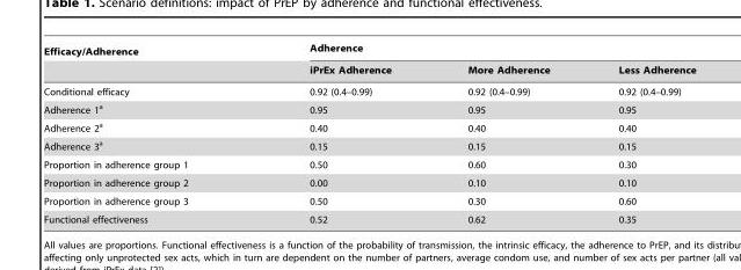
<table><thead><tr><td rowspan="2">Efficacy/Adherence</td><td colspan="3">Adherence</td></tr><tr><td>iPrEx Adherence</td><td>More Adherence</td><td>Less Adherence</td></tr></thead><tbody><tr><td>Conditional efficacy</td><td>0.92 (0.4–0.99)</td><td>0.92 (0.4–0.99)</td><td>0.92 (0.4–0.99)</td></tr><tr><td>Adherence 1<sup>a</sup></td><td>0.95</td><td>0.95</td><td>0.95</td></tr><tr><td>Adherence 2<sup>a</sup></td><td>0.40</td><td>0.40</td><td>0.40</td></tr><tr><td>Adherence 3<sup>a</sup></td><td>0.15</td><td>0.15</td><td>0.15</td></tr><tr><td>Proportion in adherence group 1</td><td>0.50</td><td>0.60</td><td>0.30</td></tr><tr><td>Proportion in adherence group 2</td><td>0.00</td><td>0.10</td><td>0.10</td></tr><tr><td>Proportion in adherence group 3</td><td>0.50</td><td>0.30</td><td>0.60</td></tr><tr><td>Functional effectiveness</td><td>0.52</td><td>0.62</td><td>0.35</td></tr></tbody></table>